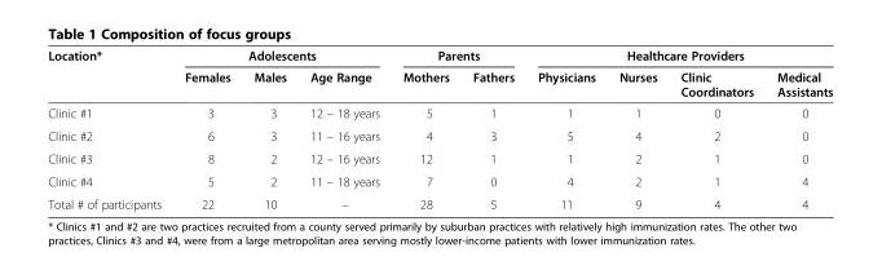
<table><thead><tr><td rowspan="2">Location*</td><td colspan="3">Adolescents</td><td colspan="2">Parents</td><td colspan="4">Healthcare Providers</td></tr><tr><td>Females</td><td>Males</td><td>Age Range</td><td>Mothers</td><td>Fathers</td><td>Physicians</td><td>Nurses</td><td>Clinic Coordinators</td><td>Medical Assistants</td></tr></thead><tbody><tr><td>Clinic #1</td><td>3</td><td>3</td><td>12 – 18 years</td><td>5</td><td>1</td><td>1</td><td>1</td><td>0</td><td>0</td></tr><tr><td>Clinic #2</td><td>6</td><td>3</td><td>11 – 16 years</td><td>4</td><td>3</td><td>5</td><td>4</td><td>2</td><td>0</td></tr><tr><td>Clinic #3</td><td>8</td><td>2</td><td>12 – 16 years</td><td>12</td><td>1</td><td>1</td><td>2</td><td>1</td><td>0</td></tr><tr><td>Clinic #4</td><td>5</td><td>2</td><td>11 – 18 years</td><td>7</td><td>0</td><td>4</td><td>2</td><td>1</td><td>4</td></tr><tr><td>Total # of participants</td><td>22</td><td>10</td><td>–</td><td>28</td><td>5</td><td>11</td><td>9</td><td>4</td><td>4</td></tr></tbody></table>